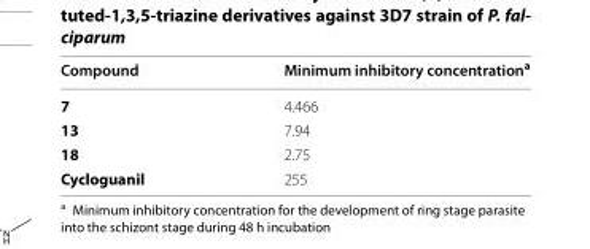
<table><thead><tr><td>Compound</td><td>Minimum inhibitory concentration<sup>a</sup></td></tr></thead><tbody><tr><td>7</td><td>4.466</td></tr><tr><td>13</td><td>7.94</td></tr><tr><td>18</td><td>2.75</td></tr><tr><td>Cycloguanil</td><td>255</td></tr></tbody></table>